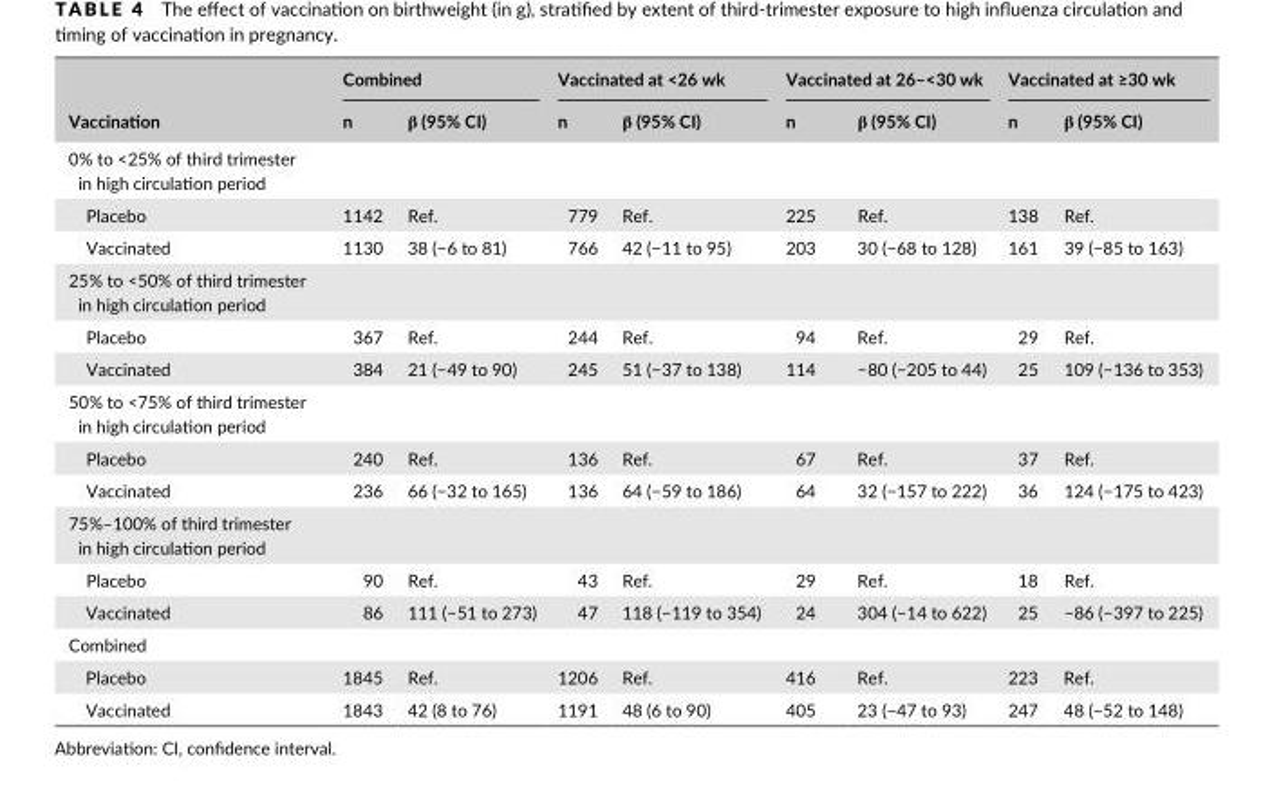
<table><thead><tr><td rowspan="2">Vaccination</td><td colspan="2">Combined</td><td colspan="2">Vaccinated at &lt;26 wk</td><td colspan="2">Vaccinated at 26–&lt;30 wk</td><td colspan="2">Vaccinated at ≥30 wk</td></tr><tr><td>n</td><td>β (95% CI)</td><td>n</td><td>β (95% CI)</td><td>n</td><td>β (95% CI)</td><td>n</td><td>β (95% CI)</td></tr></thead><tbody><tr><td colspan="9">0% to &lt;25% of third trimester in high circulation period</td></tr><tr><td>Placebo</td><td>1142</td><td>Ref.</td><td>779</td><td>Ref.</td><td>225</td><td>Ref.</td><td>138</td><td>Ref.</td></tr><tr><td>Vaccinated</td><td>1130</td><td>38 (−6 to 81)</td><td>766</td><td>42 (−11 to 95)</td><td>203</td><td>30 (−68 to 128)</td><td>161</td><td>39 (−85 to 163)</td></tr><tr><td colspan="9">25% to &lt;50% of third trimester in high circulation period</td></tr><tr><td>Placebo</td><td>367</td><td>Ref.</td><td>244</td><td>Ref.</td><td>94</td><td>Ref.</td><td>29</td><td>Ref.</td></tr><tr><td>Vaccinated</td><td>384</td><td>21 (−49 to 90)</td><td>245</td><td>51 (−37 to 138)</td><td>114</td><td>−80 (−205 to 44)</td><td>25</td><td>109 (−136 to 353)</td></tr><tr><td colspan="9">50% to &lt;75% of third trimester in high circulation period</td></tr><tr><td>Placebo</td><td>240</td><td>Ref.</td><td>136</td><td>Ref.</td><td>67</td><td>Ref.</td><td>37</td><td>Ref.</td></tr><tr><td>Vaccinated</td><td>236</td><td>66 (−32 to 165)</td><td>136</td><td>64 (−59 to 186)</td><td>64</td><td>32 (−157 to 222)</td><td>36</td><td>124 (−175 to 423)</td></tr><tr><td colspan="9">75%–100% of third trimester in high circulation period</td></tr><tr><td>Placebo</td><td>90</td><td>Ref.</td><td>43</td><td>Ref.</td><td>29</td><td>Ref.</td><td>18</td><td>Ref.</td></tr><tr><td>Vaccinated</td><td>86</td><td>111 (−51 to 273)</td><td>47</td><td>118 (−119 to 354)</td><td>24</td><td>304 (−14 to 622)</td><td>25</td><td>−86 (−397 to 225)</td></tr><tr><td colspan="9">Combined</td></tr><tr><td>Placebo</td><td>1845</td><td>Ref.</td><td>1206</td><td>Ref.</td><td>416</td><td>Ref.</td><td>223</td><td>Ref.</td></tr><tr><td>Vaccinated</td><td>1843</td><td>42 (8 to 76)</td><td>1191</td><td>48 (6 to 90)</td><td>405</td><td>23 (−47 to 93)</td><td>247</td><td>48 (−52 to 148)</td></tr></tbody></table>